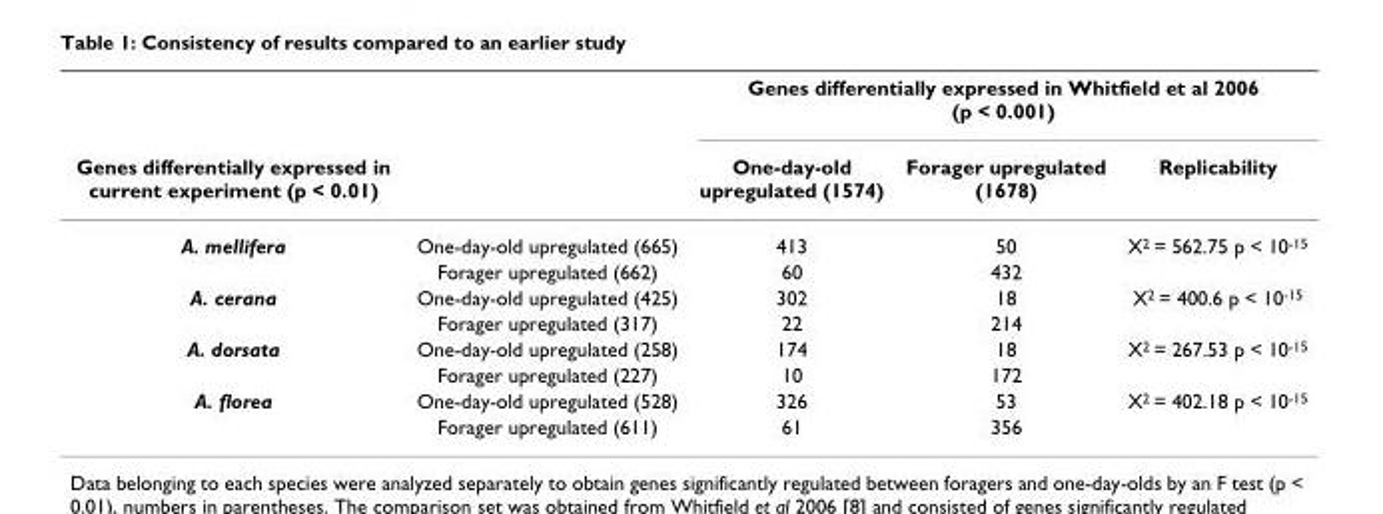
<table><thead><tr><td rowspan="2">Genes differentially expressed in current experiment (p &lt; 0.01)</td><td rowspan="2"></td><td colspan="3">Genes differentially expressed in Whitfield et al 2006 (p &lt; 0.001)</td></tr><tr><td>One-day-old upregulated (1574)</td><td>Forager upregulated (1678)</td><td>Replicability</td></tr></thead><tbody><tr><td rowspan="2">A. mellifera</td><td>One-day-old upregulated (665)</td><td>413</td><td>50</td><td>X<sup>2</sup> = 562.75 p &lt; 10<sup>-15</sup></td></tr><tr><td>Forager upregulated (662)</td><td>60</td><td>432</td><td></td></tr><tr><td rowspan="2">A. cerana</td><td>One-day-old upregulated (425)</td><td>302</td><td>18</td><td>X<sup>2</sup> = 400.6 p &lt; 10<sup>-15</sup></td></tr><tr><td>Forager upregulated (317)</td><td>22</td><td>214</td><td></td></tr><tr><td rowspan="2">A. dorsata</td><td>One-day-old upregulated (258)</td><td>174</td><td>18</td><td>X<sup>2</sup> = 267.53 p &lt; 10<sup>-15</sup></td></tr><tr><td>Forager upregulated (227)</td><td>10</td><td>172</td><td></td></tr><tr><td rowspan="2">A. florea</td><td>One-day-old upregulated (528)</td><td>326</td><td>53</td><td>X<sup>2</sup> = 402.18 p &lt; 10<sup>-15</sup></td></tr><tr><td>Forager upregulated (611)</td><td>61</td><td>356</td><td></td></tr></tbody></table>